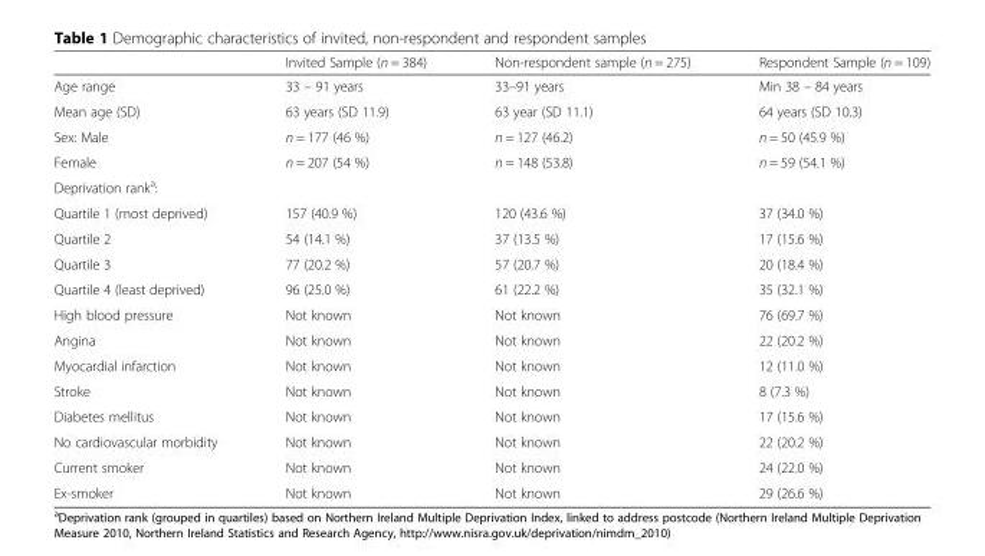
<table><thead><tr><td></td><td>Invited Sample (n = 384)</td><td>Non-respondent sample (n = 275)</td><td>Respondent Sample (n = 109)</td></tr></thead><tbody><tr><td>Age range</td><td>33 – 91 years</td><td>33–91 years</td><td>Min 38 – 84 years</td></tr><tr><td>Mean age (SD)</td><td>63 years (SD 11.9)</td><td>63 year (SD 11.1)</td><td>64 years (SD 10.3)</td></tr><tr><td>Sex: Male</td><td>n = 177 (46 %)</td><td>n = 127 (46.2)</td><td>n = 50 (45.9 %)</td></tr><tr><td>Female</td><td>n = 207 (54 %)</td><td>n = 148 (53.8)</td><td>n = 59 (54.1 %)</td></tr><tr><td colspan="4">Deprivation rank<sup>a</sup>:</td></tr><tr><td>Quartile 1 (most deprived)</td><td>157 (40.9 %)</td><td>120 (43.6 %)</td><td>37 (34.0 %)</td></tr><tr><td>Quartile 2</td><td>54 (14.1 %)</td><td>37 (13.5 %)</td><td>17 (15.6 %)</td></tr><tr><td>Quartile 3</td><td>77 (20.2 %)</td><td>57 (20.7 %)</td><td>20 (18.4 %)</td></tr><tr><td>Quartile 4 (least deprived)</td><td>96 (25.0 %)</td><td>61 (22.2 %)</td><td>35 (32.1 %)</td></tr><tr><td>High blood pressure</td><td>Not known</td><td>Not known</td><td>76 (69.7 %)</td></tr><tr><td>Angina</td><td>Not known</td><td>Not known</td><td>22 (20.2 %)</td></tr><tr><td>Myocardial infarction</td><td>Not known</td><td>Not known</td><td>12 (11.0 %)</td></tr><tr><td>Stroke</td><td>Not known</td><td>Not known</td><td>8 (7.3 %)</td></tr><tr><td>Diabetes mellitus</td><td>Not known</td><td>Not known</td><td>17 (15.6 %)</td></tr><tr><td>No cardiovascular morbidity</td><td>Not known</td><td>Not known</td><td>22 (20.2 %)</td></tr><tr><td>Current smoker</td><td>Not known</td><td>Not known</td><td>24 (22.0 %)</td></tr><tr><td>Ex-smoker</td><td>Not known</td><td>Not known</td><td>29 (26.6 %)</td></tr></tbody></table>